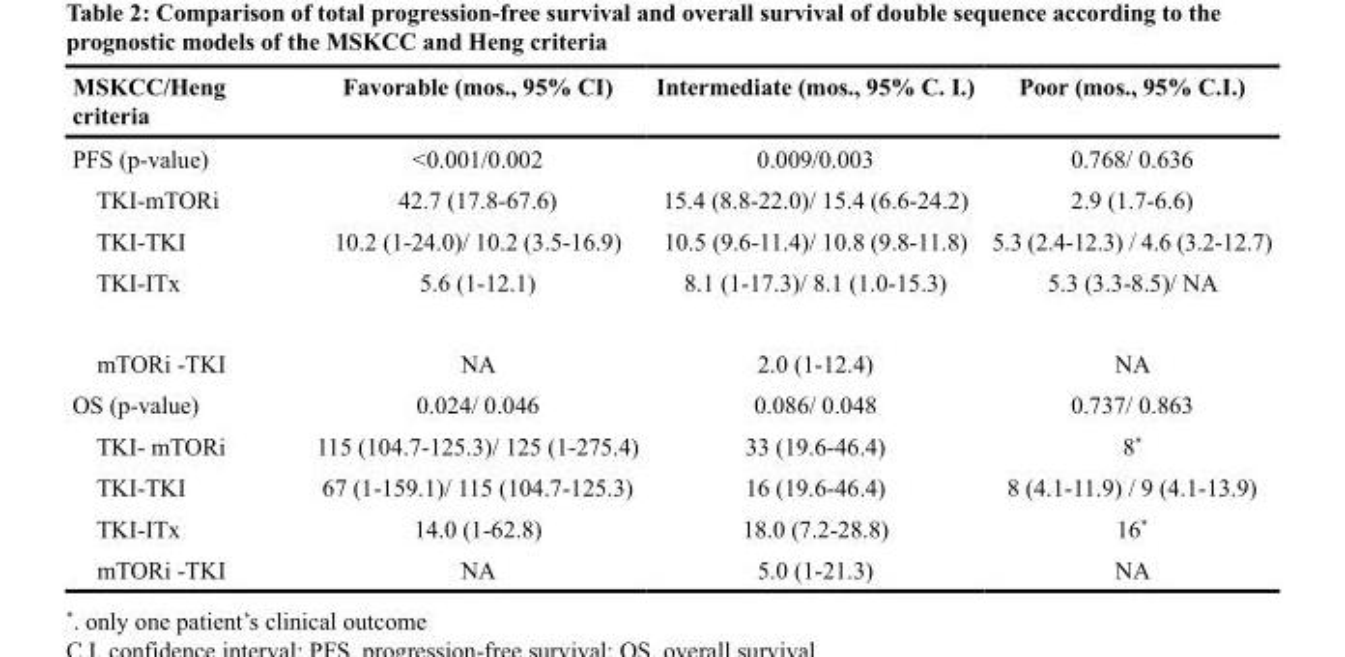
<table><thead><tr><td>MSKCC/Heng criteria</td><td>Favorable (mos., 95% CI)</td><td>Intermediate (mos., 95% C. I.)</td><td>Poor (mos., 95% C.I.)</td></tr></thead><tbody><tr><td>PFS (p-value)</td><td>&lt;0.001/0.002</td><td>0.009/0.003</td><td>0.768/ 0.636</td></tr><tr><td>TKI-mTORi</td><td>42.7 (17.8-67.6)</td><td>15.4 (8.8-22.0)/ 15.4 (6.6-24.2)</td><td>2.9 (1.7-6.6)</td></tr><tr><td>TKI-TKI</td><td>10.2 (1-24.0)/ 10.2 (3.5-16.9)</td><td>10.5 (9.6-11.4)/ 10.8 (9.8-11.8)</td><td>5.3 (2.4-12.3) / 4.6 (3.2-12.7)</td></tr><tr><td>TKI-ITx</td><td>5.6 (1-12.1)</td><td>8.1 (1-17.3)/ 8.1 (1.0-15.3)</td><td>5.3 (3.3-8.5)/ NA</td></tr><tr><td>mTORi -TKI</td><td>NA</td><td>2.0 (1-12.4)</td><td>NA</td></tr><tr><td>OS (p-value)</td><td>0.024/ 0.046</td><td>0.086/ 0.048</td><td>0.737/ 0.863</td></tr><tr><td>TKI- mTORi</td><td>115 (104.7-125.3)/ 125 (1-275.4)</td><td>33 (19.6-46.4)</td><td>8*</td></tr><tr><td>TKI-TKI</td><td>67 (1-159.1)/ 115 (104.7-125.3)</td><td>16 (19.6-46.4)</td><td>8 (4.1-11.9) / 9 (4.1-13.9)</td></tr><tr><td>TKI-ITx</td><td>14.0 (1-62.8)</td><td>18.0 (7.2-28.8)</td><td>16*</td></tr><tr><td>mTORi -TKI</td><td>NA</td><td>5.0 (1-21.3)</td><td>NA</td></tr></tbody></table>